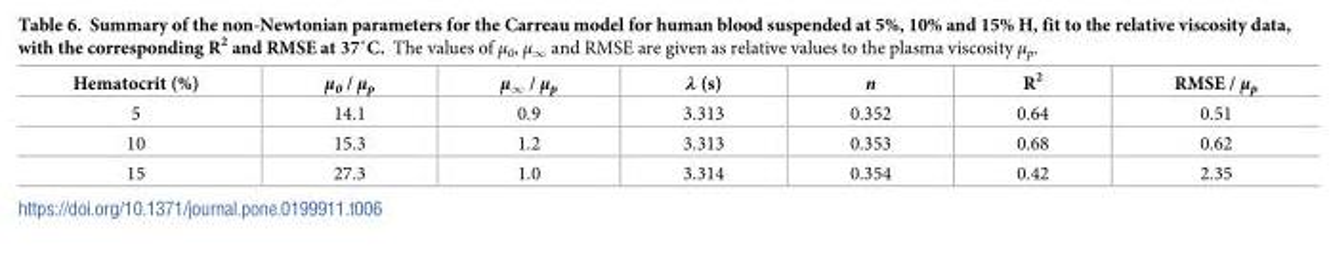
<table><thead><tr><td>Hematocrit (%)</td><td>μ<sub>0</sub> / μ<sub>p</sub></td><td>μ<sub>∞</sub> / μ<sub>p</sub></td><td>λ (s)</td><td>n</td><td>R<sup>2</sup></td><td>RMSE / μ<sub>p</sub></td></tr></thead><tbody><tr><td>5</td><td>14.1</td><td>0.9</td><td>3.313</td><td>0.352</td><td>0.64</td><td>0.51</td></tr><tr><td>10</td><td>15.3</td><td>1.2</td><td>3.313</td><td>0.353</td><td>0.68</td><td>0.62</td></tr><tr><td>15</td><td>27.3</td><td>1.0</td><td>3.314</td><td>0.354</td><td>0.42</td><td>2.35</td></tr></tbody></table>